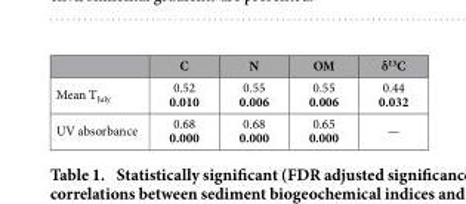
<table><thead><tr><td></td><td>C</td><td>N</td><td>OM</td><td>δ<sup>13</sup>C</td></tr></thead><tbody><tr><td>Mean T<sub>July</sub></td><td>0.52 0.010</td><td>0.55 0.006</td><td>0.55 0.006</td><td>0.44 0.032</td></tr><tr><td>UV absorbance</td><td>0.68 0.000</td><td>0.68 0.000</td><td>0.65 0.000</td><td>—</td></tr></tbody></table>